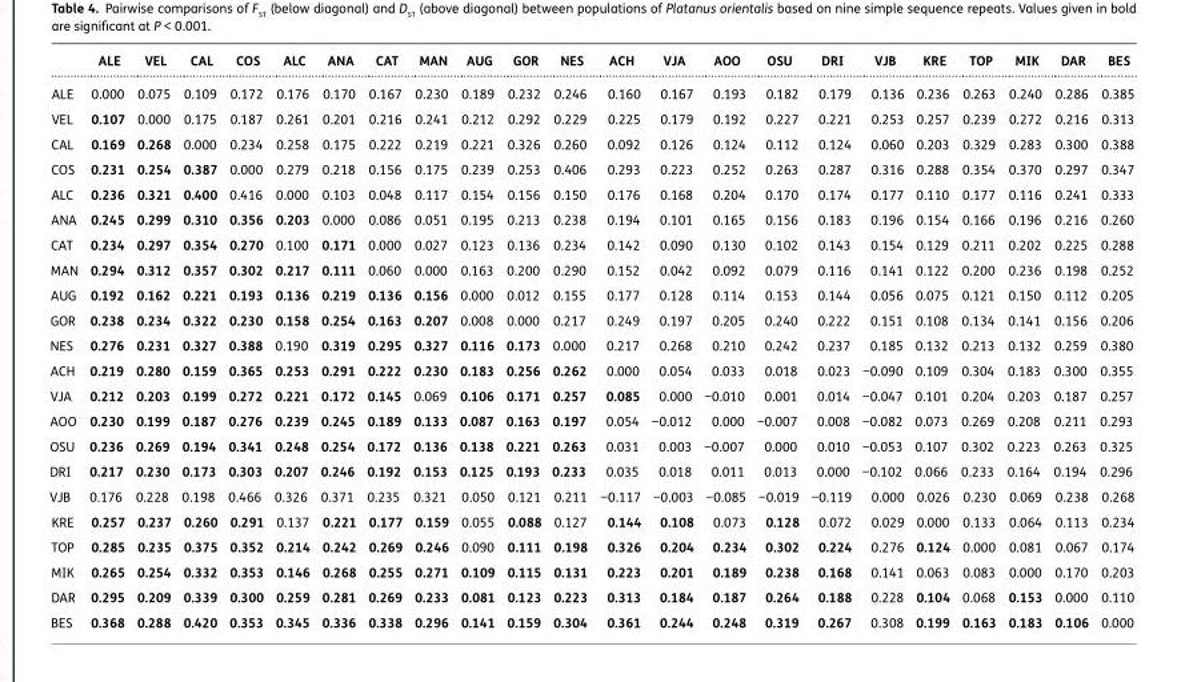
<table><thead><tr><td></td><td>ALE</td><td>VEL</td><td>CAL</td><td>COS</td><td>ALC</td><td>ANA</td><td>CAT</td><td>MAN</td><td>AUG</td><td>GOR</td><td>NES</td><td>ACH</td><td>VJA</td><td>AOO</td><td>OSU</td><td>DRI</td><td>VJB</td><td>KRE</td><td>TOP</td><td>MIK</td><td>DAR</td><td>BES</td></tr></thead><tbody><tr><td>ALE</td><td>0.000</td><td>0.075</td><td>0.109</td><td>0.172</td><td>0.176</td><td>0.170</td><td>0.167</td><td>0.230</td><td>0.189</td><td>0.232</td><td>0.246</td><td>0.160</td><td>0.167</td><td>0.193</td><td>0.182</td><td>0.179</td><td>0.136</td><td>0.236</td><td>0.263</td><td>0.240</td><td>0.286</td><td>0.385</td></tr><tr><td>VEL</td><td>0.107</td><td>0.000</td><td>0.175</td><td>0.187</td><td>0.261</td><td>0.201</td><td>0.216</td><td>0.241</td><td>0.212</td><td>0.292</td><td>0.229</td><td>0.225</td><td>0.179</td><td>0.192</td><td>0.227</td><td>0.221</td><td>0.253</td><td>0.257</td><td>0.239</td><td>0.272</td><td>0.216</td><td>0.313</td></tr><tr><td>CAL</td><td>0.169</td><td>0.268</td><td>0.000</td><td>0.234</td><td>0.258</td><td>0.175</td><td>0.222</td><td>0.219</td><td>0.221</td><td>0.326</td><td>0.260</td><td>0.092</td><td>0.126</td><td>0.124</td><td>0.112</td><td>0.124</td><td>0.060</td><td>0.203</td><td>0.329</td><td>0.283</td><td>0.300</td><td>0.388</td></tr><tr><td>COS</td><td>0.231</td><td>0.254</td><td>0.387</td><td>0.000</td><td>0.279</td><td>0.218</td><td>0.156</td><td>0.175</td><td>0.239</td><td>0.253</td><td>0.406</td><td>0.293</td><td>0.223</td><td>0.252</td><td>0.263</td><td>0.287</td><td>0.316</td><td>0.288</td><td>0.354</td><td>0.370</td><td>0.297</td><td>0.347</td></tr><tr><td>ALC</td><td>0.236</td><td>0.321</td><td>0.400</td><td>0.416</td><td>0.000</td><td>0.103</td><td>0.048</td><td>0.117</td><td>0.154</td><td>0.156</td><td>0.150</td><td>0.176</td><td>0.168</td><td>0.204</td><td>0.170</td><td>0.174</td><td>0.177</td><td>0.110</td><td>0.177</td><td>0.116</td><td>0.241</td><td>0.333</td></tr><tr><td>ANA</td><td>0.245</td><td>0.299</td><td>0.310</td><td>0.356</td><td>0.203</td><td>0.000</td><td>0.086</td><td>0.051</td><td>0.195</td><td>0.213</td><td>0.238</td><td>0.194</td><td>0.101</td><td>0.165</td><td>0.156</td><td>0.183</td><td>0.196</td><td>0.154</td><td>0.166</td><td>0.196</td><td>0.216</td><td>0.260</td></tr><tr><td>CAT</td><td>0.234</td><td>0.297</td><td>0.354</td><td>0.270</td><td>0.100</td><td>0.171</td><td>0.000</td><td>0.027</td><td>0.123</td><td>0.136</td><td>0.234</td><td>0.142</td><td>0.090</td><td>0.130</td><td>0.102</td><td>0.143</td><td>0.154</td><td>0.129</td><td>0.211</td><td>0.202</td><td>0.225</td><td>0.288</td></tr><tr><td>MAN</td><td>0.294</td><td>0.312</td><td>0.357</td><td>0.302</td><td>0.217</td><td>0.111</td><td>0.060</td><td>0.000</td><td>0.163</td><td>0.200</td><td>0.290</td><td>0.152</td><td>0.042</td><td>0.092</td><td>0.079</td><td>0.116</td><td>0.141</td><td>0.122</td><td>0.200</td><td>0.236</td><td>0.198</td><td>0.252</td></tr><tr><td>AUG</td><td>0.192</td><td>0.162</td><td>0.221</td><td>0.193</td><td>0.136</td><td>0.219</td><td>0.136</td><td>0.156</td><td>0.000</td><td>0.012</td><td>0.155</td><td>0.177</td><td>0.128</td><td>0.114</td><td>0.153</td><td>0.144</td><td>0.056</td><td>0.075</td><td>0.121</td><td>0.150</td><td>0.112</td><td>0.205</td></tr><tr><td>GOR</td><td>0.238</td><td>0.234</td><td>0.322</td><td>0.230</td><td>0.158</td><td>0.254</td><td>0.163</td><td>0.207</td><td>0.008</td><td>0.000</td><td>0.217</td><td>0.249</td><td>0.197</td><td>0.205</td><td>0.240</td><td>0.222</td><td>0.151</td><td>0.108</td><td>0.134</td><td>0.141</td><td>0.156</td><td>0.206</td></tr><tr><td>NES</td><td>0.276</td><td>0.231</td><td>0.327</td><td>0.388</td><td>0.190</td><td>0.319</td><td>0.295</td><td>0.327</td><td>0.116</td><td>0.173</td><td>0.000</td><td>0.217</td><td>0.268</td><td>0.210</td><td>0.242</td><td>0.237</td><td>0.185</td><td>0.132</td><td>0.213</td><td>0.132</td><td>0.259</td><td>0.380</td></tr><tr><td>ACH</td><td>0.219</td><td>0.280</td><td>0.159</td><td>0.365</td><td>0.253</td><td>0.291</td><td>0.222</td><td>0.230</td><td>0.183</td><td>0.256</td><td>0.262</td><td>0.000</td><td>0.054</td><td>0.033</td><td>0.018</td><td>0.023</td><td>−0.090</td><td>0.109</td><td>0.304</td><td>0.183</td><td>0.300</td><td>0.355</td></tr><tr><td>VJA</td><td>0.212</td><td>0.203</td><td>0.199</td><td>0.272</td><td>0.221</td><td>0.172</td><td>0.145</td><td>0.069</td><td>0.106</td><td>0.171</td><td>0.257</td><td>0.085</td><td>0.000</td><td>−0.010</td><td>0.001</td><td>0.014</td><td>−0.047</td><td>0.101</td><td>0.204</td><td>0.203</td><td>0.187</td><td>0.257</td></tr><tr><td>AOO</td><td>0.230</td><td>0.199</td><td>0.187</td><td>0.276</td><td>0.239</td><td>0.245</td><td>0.189</td><td>0.133</td><td>0.087</td><td>0.163</td><td>0.197</td><td>0.054</td><td>−0.012</td><td>0.000</td><td>−0.007</td><td>0.008</td><td>−0.082</td><td>0.073</td><td>0.269</td><td>0.208</td><td>0.211</td><td>0.293</td></tr><tr><td>OSU</td><td>0.236</td><td>0.269</td><td>0.194</td><td>0.341</td><td>0.248</td><td>0.254</td><td>0.172</td><td>0.136</td><td>0.138</td><td>0.221</td><td>0.263</td><td>0.031</td><td>0.003</td><td>−0.007</td><td>0.000</td><td>0.010</td><td>−0.053</td><td>0.107</td><td>0.302</td><td>0.223</td><td>0.263</td><td>0.325</td></tr><tr><td>DRI</td><td>0.217</td><td>0.230</td><td>0.173</td><td>0.303</td><td>0.207</td><td>0.246</td><td>0.192</td><td>0.153</td><td>0.125</td><td>0.193</td><td>0.233</td><td>0.035</td><td>0.018</td><td>0.011</td><td>0.013</td><td>0.000</td><td>−0.102</td><td>0.066</td><td>0.233</td><td>0.164</td><td>0.194</td><td>0.296</td></tr><tr><td>VJB</td><td>0.176</td><td>0.228</td><td>0.198</td><td>0.466</td><td>0.326</td><td>0.371</td><td>0.235</td><td>0.321</td><td>0.050</td><td>0.121</td><td>0.211</td><td>−0.117</td><td>−0.003</td><td>−0.085</td><td>−0.019</td><td>−0.119</td><td>0.000</td><td>0.026</td><td>0.230</td><td>0.069</td><td>0.238</td><td>0.268</td></tr><tr><td>KRE</td><td>0.257</td><td>0.237</td><td>0.260</td><td>0.291</td><td>0.137</td><td>0.221</td><td>0.177</td><td>0.159</td><td>0.055</td><td>0.088</td><td>0.127</td><td>0.144</td><td>0.108</td><td>0.073</td><td>0.128</td><td>0.072</td><td>0.029</td><td>0.000</td><td>0.133</td><td>0.064</td><td>0.113</td><td>0.234</td></tr><tr><td>TOP</td><td>0.285</td><td>0.235</td><td>0.375</td><td>0.352</td><td>0.214</td><td>0.242</td><td>0.269</td><td>0.246</td><td>0.090</td><td>0.111</td><td>0.198</td><td>0.326</td><td>0.204</td><td>0.234</td><td>0.302</td><td>0.224</td><td>0.276</td><td>0.124</td><td>0.000</td><td>0.081</td><td>0.067</td><td>0.174</td></tr><tr><td>MIK</td><td>0.265</td><td>0.254</td><td>0.332</td><td>0.353</td><td>0.146</td><td>0.268</td><td>0.255</td><td>0.271</td><td>0.109</td><td>0.115</td><td>0.131</td><td>0.223</td><td>0.201</td><td>0.189</td><td>0.238</td><td>0.168</td><td>0.141</td><td>0.063</td><td>0.083</td><td>0.000</td><td>0.170</td><td>0.203</td></tr><tr><td>DAR</td><td>0.295</td><td>0.209</td><td>0.339</td><td>0.300</td><td>0.259</td><td>0.281</td><td>0.269</td><td>0.233</td><td>0.081</td><td>0.123</td><td>0.223</td><td>0.313</td><td>0.184</td><td>0.187</td><td>0.264</td><td>0.188</td><td>0.228</td><td>0.104</td><td>0.068</td><td>0.153</td><td>0.000</td><td>0.110</td></tr><tr><td>BES</td><td>0.368</td><td>0.288</td><td>0.420</td><td>0.353</td><td>0.345</td><td>0.336</td><td>0.338</td><td>0.296</td><td>0.141</td><td>0.159</td><td>0.304</td><td>0.361</td><td>0.244</td><td>0.248</td><td>0.319</td><td>0.267</td><td>0.308</td><td>0.199</td><td>0.163</td><td>0.183</td><td>0.106</td><td>0.000</td></tr></tbody></table>